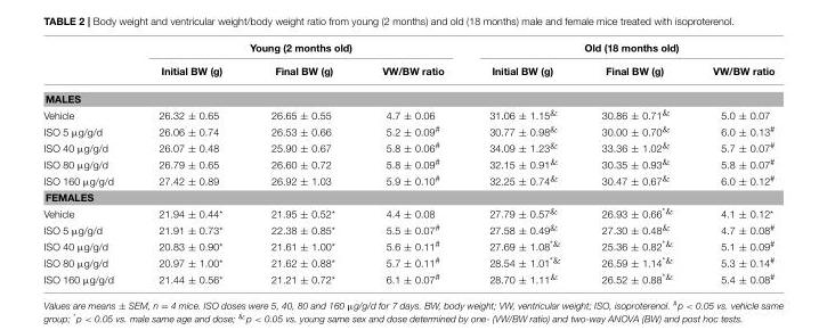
<table><thead><tr><td rowspan="2"></td><td colspan="3">Young (2 months old)</td><td colspan="3">Old (18 months old)</td></tr><tr><td>Initial BW (g)</td><td>Final BW (g)</td><td>VW/BW ratio</td><td>Initial BW (g)</td><td>Final BW (g)</td><td>VW/BW ratio</td></tr></thead><tbody><tr><td colspan="7">MALES</td></tr><tr><td>Vehicle</td><td>26.32 ± 0.65</td><td>26.65 ± 0.55</td><td>4.7 ± 0.06</td><td>31.06 ± 1.15<sup>&amp;</sup></td><td>30.86 ± 0.71<sup>&amp;</sup></td><td>5.0 ± 0.07</td></tr><tr><td>ISO 5 µg/g/d</td><td>26.06 ± 0.74</td><td>26.53 ± 0.66</td><td>5.2 ± 0.09<sup>#</sup></td><td>30.77 ± 0.98<sup>&amp;</sup></td><td>30.00 ± 0.70<sup>&amp;</sup></td><td>6.0 ± 0.13<sup>#</sup></td></tr><tr><td>ISO 40 µg/g/d</td><td>26.07 ± 0.48</td><td>25.90 ± 0.67</td><td>5.8 ± 0.06<sup>#</sup></td><td>34.09 ± 1.23<sup>&amp;</sup></td><td>33.36 ± 1.02<sup>&amp;</sup></td><td>5.7 ± 0.07<sup>#</sup></td></tr><tr><td>ISO 80 µg/g/d</td><td>26.79 ± 0.65</td><td>26.60 ± 0.72</td><td>5.8 ± 0.09<sup>#</sup></td><td>32.15 ± 0.91<sup>&amp;</sup></td><td>30.35 ± 0.93<sup>&amp;</sup></td><td>5.8 ± 0.07<sup>#</sup></td></tr><tr><td>ISO 160 µg/g/d</td><td>27.42 ± 0.89</td><td>26.92 ± 1.03</td><td>5.9 ± 0.10<sup>#</sup></td><td>32.25 ± 0.74<sup>&amp;</sup></td><td>30.47 ± 0.67<sup>&amp;</sup></td><td>6.0 ± 0.12<sup>#</sup></td></tr><tr><td colspan="7">FEMALES</td></tr><tr><td>Vehicle</td><td>21.94 ± 0.44*</td><td>21.95 ± 0.52*</td><td>4.4 ± 0.08</td><td>27.79 ± 0.57<sup>&amp;</sup></td><td>26.93 ± 0.66<sup>*&amp;</sup></td><td>4.1 ± 0.12*</td></tr><tr><td>ISO 5 µg/g/d</td><td>21.91 ± 0.73*</td><td>22.38 ± 0.85*</td><td>5.5 ± 0.07<sup>#</sup></td><td>27.58 ± 0.49<sup>&amp;</sup></td><td>27.30 ± 0.48<sup>&amp;</sup></td><td>4.7 ± 0.08<sup>#</sup></td></tr><tr><td>ISO 40 µg/g/d</td><td>20.83 ± 0.90*</td><td>21.61 ± 1.00*</td><td>5.6 ± 0.11<sup>#</sup></td><td>27.69 ± 1.08<sup>*&amp;</sup></td><td>25.36 ± 0.82<sup>*&amp;</sup></td><td>5.1 ± 0.09<sup>#</sup></td></tr><tr><td>ISO 80 µg/g/d</td><td>20.97 ± 1.00*</td><td>21.62 ± 0.88*</td><td>5.7 ± 0.11<sup>#</sup></td><td>28.54 ± 1.01<sup>*&amp;</sup></td><td>26.59 ± 1.14<sup>*&amp;</sup></td><td>5.3 ± 0.14<sup>#</sup></td></tr><tr><td>ISO 160 µg/g/d</td><td>21.44 ± 0.56*</td><td>21.21 ± 0.72*</td><td>6.1 ± 0.07<sup>#</sup></td><td>28.70 ± 1.11<sup>&amp;</sup></td><td>26.52 ± 0.88<sup>*&amp;</sup></td><td>5.4 ± 0.08<sup>#</sup></td></tr></tbody></table>